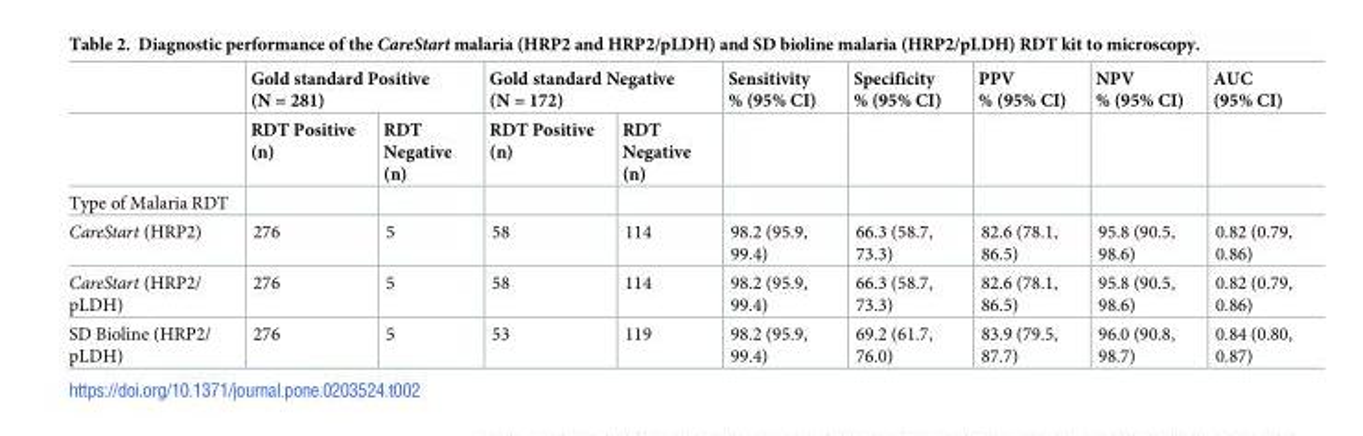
<table><thead><tr><td rowspan="2"></td><td colspan="2">Gold standard Positive (N = 281)</td><td colspan="2">Gold standard Negative (N = 172)</td><td rowspan="2">Sensitivity % (95% CI)</td><td rowspan="2">Specificity % (95% CI)</td><td rowspan="2">PPV % (95% CI)</td><td rowspan="2">NPV % (95% CI)</td><td rowspan="2">AUC (95% CI)</td></tr><tr><td>RDT Positive (n)</td><td>RDT Negative (n)</td><td>RDT Positive (n)</td><td>RDT Negative (n)</td></tr></thead><tbody><tr><td colspan="10">Type of Malaria RDT</td></tr><tr><td>CareStart (HRP2)</td><td>276</td><td>5</td><td>58</td><td>114</td><td>98.2 (95.9, 99.4)</td><td>66.3 (58.7, 73.3)</td><td>82.6 (78.1, 86.5)</td><td>95.8 (90.5, 98.6)</td><td>0.82 (0.79, 0.86)</td></tr><tr><td>CareStart (HRP2/ pLDH)</td><td>276</td><td>5</td><td>58</td><td>114</td><td>98.2 (95.9, 99.4)</td><td>66.3 (58.7, 73.3)</td><td>82.6 (78.1, 86.5)</td><td>95.8 (90.5, 98.6)</td><td>0.82 (0.79, 0.86)</td></tr><tr><td>SD Bioline (HRP2/ pLDH)</td><td>276</td><td>5</td><td>53</td><td>119</td><td>98.2 (95.9, 99.4)</td><td>69.2 (61.7, 76.0)</td><td>83.9 (79.5, 87.7)</td><td>96.0 (90.8, 98.7)</td><td>0.84 (0.80, 0.87)</td></tr></tbody></table>